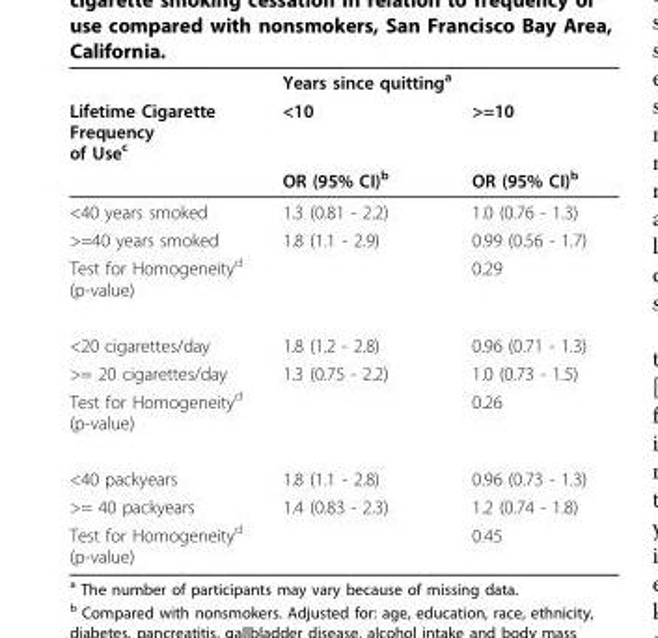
<table><thead><tr><td rowspan="3">Lifetime Cigarette Frequency of Use<sup>c</sup></td><td rowspan="3">Years since quitting<sup>a</sup> &lt;10 OR (95% CI)<sup>b</sup></td><td rowspan="3">&gt;=10 OR (95% CI)<sup>b</sup></td></tr><tr></tr><tr></tr></thead><tbody><tr><td>&lt;40 years smoked</td><td>1.3 (0.81 - 2.2)</td><td>1.0 (0.76 - 1.3)</td></tr><tr><td>&gt;=40 years smoked</td><td>1.8 (1.1 - 2.9)</td><td>0.99 (0.56 - 1.7)</td></tr><tr><td>Test for Homogeneity<sup>d</sup> (p-value)</td><td></td><td>0.29</td></tr><tr><td>&lt;20 cigarettes/day</td><td>1.8 (1.2 - 2.8)</td><td>0.96 (0.71 - 1.3)</td></tr><tr><td>&gt;= 20 cigarettes/day</td><td>1.3 (0.75 - 2.2)</td><td>1.0 (0.73 - 1.5)</td></tr><tr><td>Test for Homogeneity<sup>d</sup> (p-value)</td><td></td><td>0.26</td></tr><tr><td>&lt;40 packyears</td><td>1.8 (1.1 - 2.8)</td><td>0.96 (0.73 - 1.3)</td></tr><tr><td>&gt;= 40 packyears</td><td>1.4 (0.83 - 2.3)</td><td>1.2 (0.74 - 1.8)</td></tr><tr><td>Test for Homogeneity<sup>d</sup> (p-value)</td><td></td><td>0.45</td></tr></tbody></table>